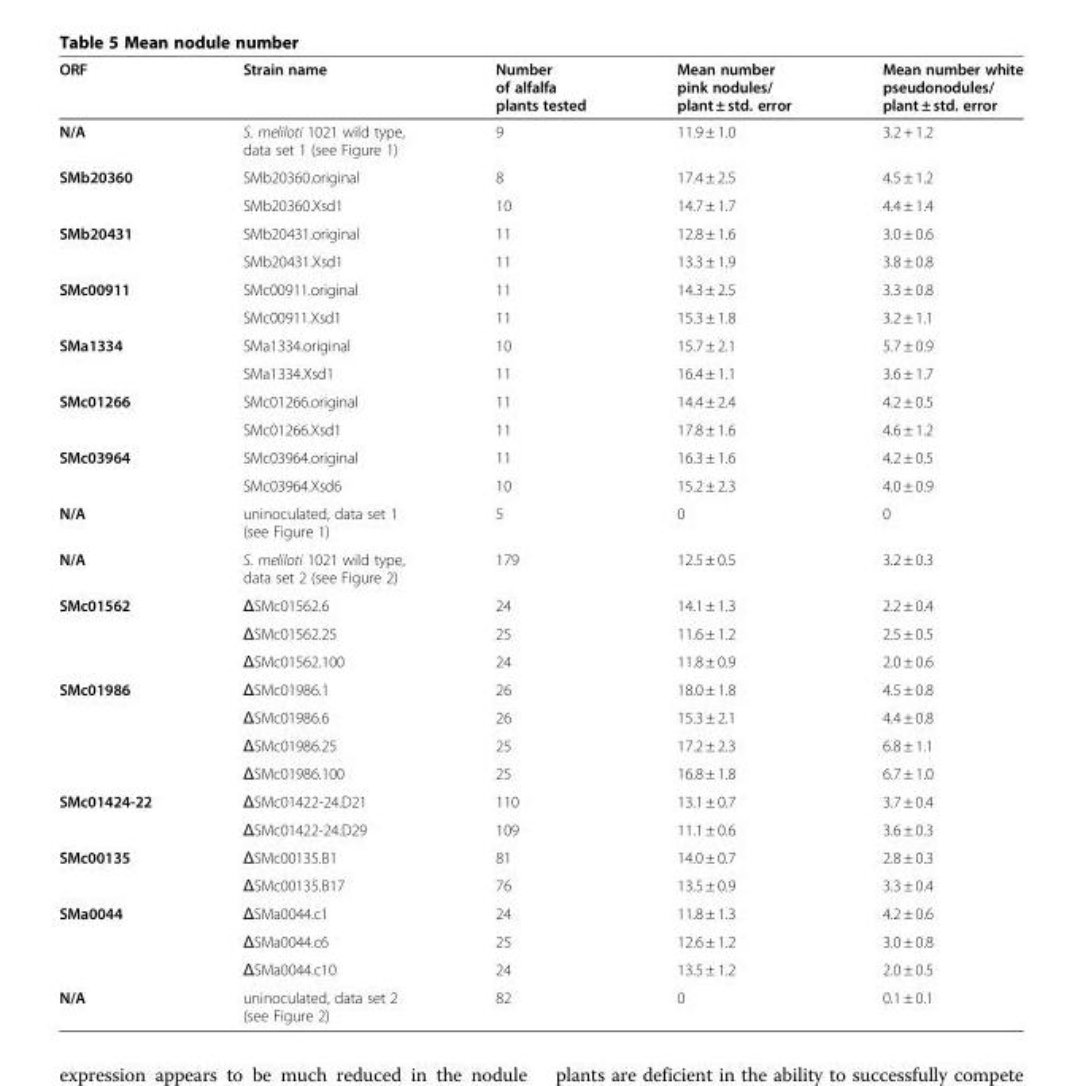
<table><thead><tr><td>ORF</td><td>Strain name</td><td>Number of alfalfa plants tested</td><td>Mean number pink nodules/ plant ± std. error</td><td>Mean number white pseudonodules/ plant ± std. error</td></tr></thead><tbody><tr><td>N/A</td><td>S. meliloti 1021 wild type, data set 1 (see Figure 1)</td><td>9</td><td>11.9 ± 1.0</td><td>3.2 + 1.2</td></tr><tr><td rowspan="2">SMb20360</td><td>SMb20360.original</td><td>8</td><td>17.4 ± 2.5</td><td>4.5 ± 1.2</td></tr><tr><td>SMb20360.Xsd1</td><td>10</td><td>14.7 ± 1.7</td><td>4.4 ± 1.4</td></tr><tr><td rowspan="2">SMb20431</td><td>SMb20431.original</td><td>11</td><td>12.8 ± 1.6</td><td>3.0 ± 0.6</td></tr><tr><td>SMb20431.Xsd1</td><td>11</td><td>13.3 ± 1.9</td><td>3.8 ± 0.8</td></tr><tr><td rowspan="2">SMc00911</td><td>SMc00911.original</td><td>11</td><td>14.3 ± 2.5</td><td>3.3 ± 0.8</td></tr><tr><td>SMc00911.Xsd1</td><td>11</td><td>15.3 ± 1.8</td><td>3.2 ± 1.1</td></tr><tr><td rowspan="2">SMa1334</td><td>SMa1334.original</td><td>10</td><td>15.7 ± 2.1</td><td>5.7 ± 0.9</td></tr><tr><td>SMa1334.Xsd1</td><td>11</td><td>16.4 ± 1.1</td><td>3.6 ± 1.7</td></tr><tr><td rowspan="2">SMc01266</td><td>SMc01266.original</td><td>11</td><td>14.4 ± 2.4</td><td>4.2 ± 0.5</td></tr><tr><td>SMc01266.Xsd1</td><td>11</td><td>17.8 ± 1.6</td><td>4.6 ± 1.2</td></tr><tr><td rowspan="2">SMc03964</td><td>SMc03964.original</td><td>11</td><td>16.3 ± 1.6</td><td>4.2 ± 0.5</td></tr><tr><td>SMc03964.Xsd6</td><td>10</td><td>15.2 ± 2.3</td><td>4.0 ± 0.9</td></tr><tr><td>N/A</td><td>uninoculated, data set 1 (see Figure 1)</td><td>5</td><td>0</td><td>0</td></tr><tr><td>N/A</td><td>S. meliloti 1021 wild type, data set 2 (see Figure 2)</td><td>179</td><td>12.5 ± 0.5</td><td>3.2 ± 0.3</td></tr><tr><td rowspan="3">SMc01562</td><td>ΔSMc01562.6</td><td>24</td><td>14.1 ± 1.3</td><td>2.2 ± 0.4</td></tr><tr><td>ΔSMc01562.25</td><td>25</td><td>11.6 ± 1.2</td><td>2.5 ± 0.5</td></tr><tr><td>ΔSMc01562.100</td><td>24</td><td>11.8 ± 0.9</td><td>2.0 ± 0.6</td></tr><tr><td rowspan="4">SMc01986</td><td>ΔSMc01986.1</td><td>26</td><td>18.0 ± 1.8</td><td>4.5 ± 0.8</td></tr><tr><td>ΔSMc01986.6</td><td>26</td><td>15.3 ± 2.1</td><td>4.4 ± 0.8</td></tr><tr><td>ΔSMc01986.25</td><td>25</td><td>17.2 ± 2.3</td><td>6.8 ± 1.1</td></tr><tr><td>ΔSMc01986.100</td><td>25</td><td>16.8 ± 1.8</td><td>6.7 ± 1.0</td></tr><tr><td rowspan="2">SMc01424-22</td><td>ΔSMc01422-24.D21</td><td>110</td><td>13.1 ± 0.7</td><td>3.7 ± 0.4</td></tr><tr><td>ΔSMc01422-24.D29</td><td>109</td><td>11.1 ± 0.6</td><td>3.6 ± 0.3</td></tr><tr><td rowspan="2">SMc00135</td><td>ΔSMc00135.B1</td><td>81</td><td>14.0 ± 0.7</td><td>2.8 ± 0.3</td></tr><tr><td>ΔSMc00135.B17</td><td>76</td><td>13.5 ± 0.9</td><td>3.3 ± 0.4</td></tr><tr><td rowspan="3">SMa0044</td><td>ΔSMa0044.c1</td><td>24</td><td>11.8 ± 1.3</td><td>4.2 ± 0.6</td></tr><tr><td>ΔSMa0044.c6</td><td>25</td><td>12.6 ± 1.2</td><td>3.0 ± 0.8</td></tr><tr><td>ΔSMa0044.c10</td><td>24</td><td>13.5 ± 1.2</td><td>2.0 ± 0.5</td></tr><tr><td>N/A</td><td>uninoculated, data set 2 (see Figure 2)</td><td>82</td><td>0</td><td>0.1 ± 0.1</td></tr></tbody></table>